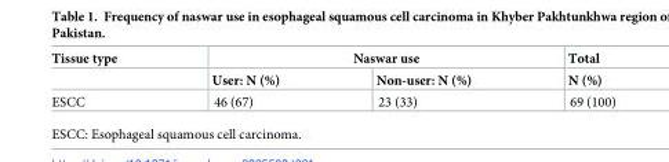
<table><thead><tr><td rowspan="2">Tissue type</td><td colspan="2">Naswar use</td><td rowspan="2">Total N (%)</td></tr><tr><td>User: N (%)</td><td>Non-user: N (%)</td></tr></thead><tbody><tr><td>ESCC</td><td>46 (67)</td><td>23 (33)</td><td>69 (100)</td></tr></tbody></table>